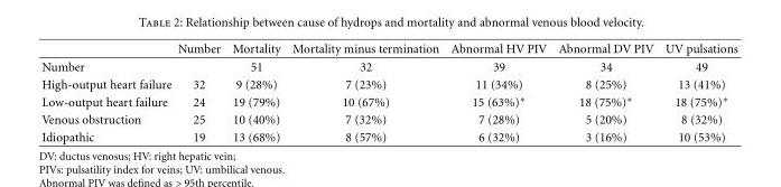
<table><thead><tr><td></td><td>Number</td><td>Mortality</td><td>Mortality minus termination</td><td>Abnormal HV PIV</td><td>Abnormal DV PIV</td><td>UV pulsations</td></tr></thead><tbody><tr><td>Number</td><td></td><td>51</td><td>32</td><td>39</td><td>34</td><td>49</td></tr><tr><td>High-output heart failure</td><td>32</td><td>9 (28%)</td><td>7 (23%)</td><td>11 (34%)</td><td>8 (25%)</td><td>13 (41%)</td></tr><tr><td>Low-output heart failure</td><td>24</td><td>19 (79%)</td><td>10 (67%)</td><td>15 (63%)∗</td><td>18 (75%)∗</td><td>18 (75%)∗</td></tr><tr><td>Venous obstruction</td><td>25</td><td>10 (40%)</td><td>7 (32%)</td><td>7 (28%)</td><td>5 (20%)</td><td>8 (32%)</td></tr><tr><td>Idiopathic</td><td>19</td><td>13 (68%)</td><td>8 (57%)</td><td>6 (32%)</td><td>3 (16%)</td><td>10 (53%)</td></tr></tbody></table>